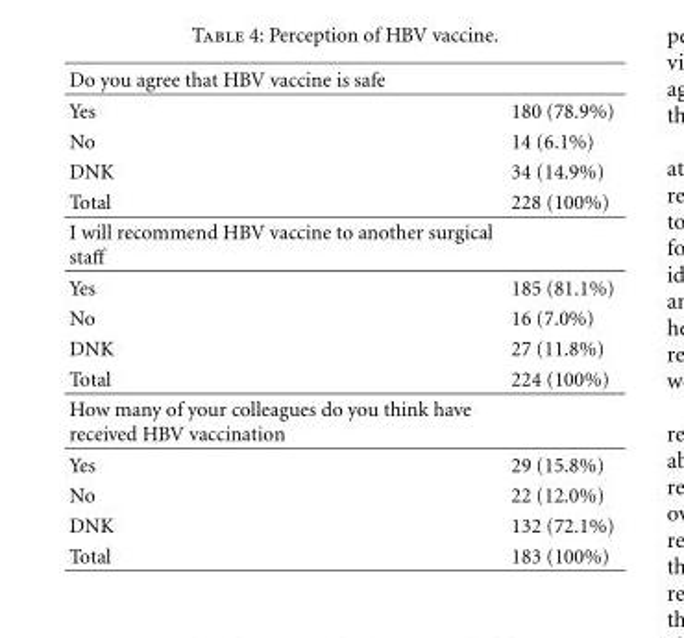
<table><thead><tr><td>Do you agree that HBV vaccine is safe</td><td></td></tr></thead><tbody><tr><td>Yes</td><td>180 (78.9%)</td></tr><tr><td>No</td><td>14 (6.1%)</td></tr><tr><td>DNK</td><td>34 (14.9%)</td></tr><tr><td>Total</td><td>228 (100%)</td></tr><tr><td colspan="2">I will recommend HBV vaccine to another surgical staff</td></tr><tr><td>Yes</td><td>185 (81.1%)</td></tr><tr><td>No</td><td>16 (7.0%)</td></tr><tr><td>DNK</td><td>27 (11.8%)</td></tr><tr><td>Total</td><td>224 (100%)</td></tr><tr><td colspan="2">How many of your colleagues do you think have received HBV vaccination</td></tr><tr><td>Yes</td><td>29 (15.8%)</td></tr><tr><td>No</td><td>22 (12.0%)</td></tr><tr><td>DNK</td><td>132 (72.1%)</td></tr><tr><td>Total</td><td>183 (100%)</td></tr></tbody></table>